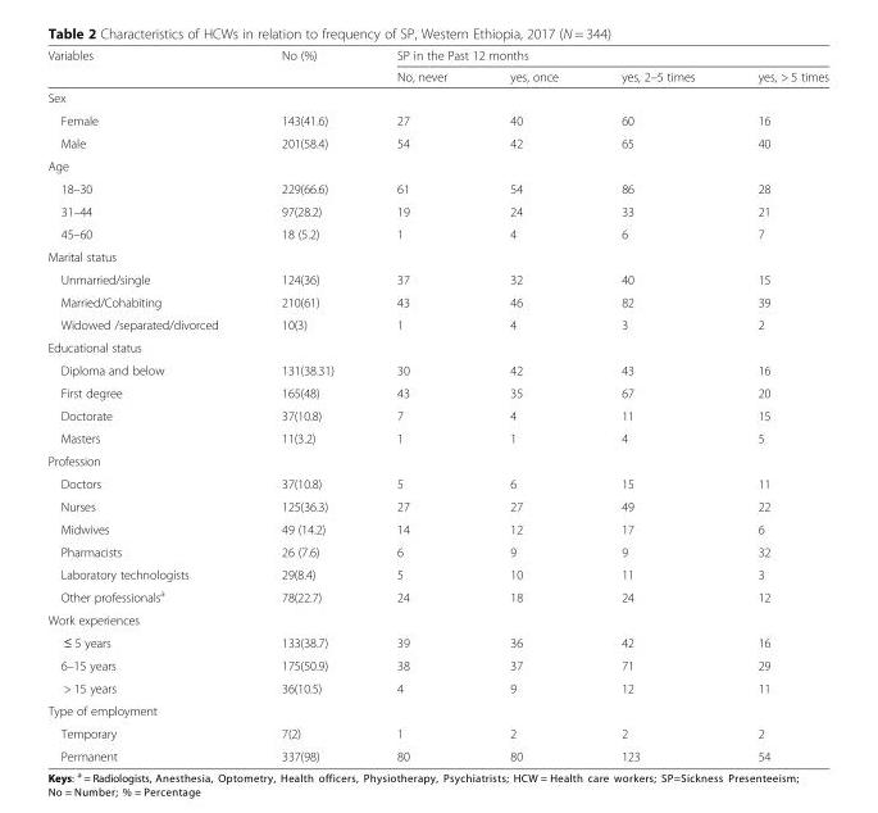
<table><thead><tr><td rowspan="2">Variables</td><td rowspan="2">No (%)</td><td colspan="4">SP in the Past 12 months</td></tr><tr><td>No, never</td><td>yes, once</td><td>yes, 2–5 times</td><td>yes, &gt; 5 times</td></tr></thead><tbody><tr><td colspan="6">Sex</td></tr><tr><td>Female</td><td>143(41.6)</td><td>27</td><td>40</td><td>60</td><td>16</td></tr><tr><td>Male</td><td>201(58.4)</td><td>54</td><td>42</td><td>65</td><td>40</td></tr><tr><td colspan="6">Age</td></tr><tr><td>18–30</td><td>229(66.6)</td><td>61</td><td>54</td><td>86</td><td>28</td></tr><tr><td>31–44</td><td>97(28.2)</td><td>19</td><td>24</td><td>33</td><td>21</td></tr><tr><td>45–60</td><td>18 (5.2)</td><td>1</td><td>4</td><td>6</td><td>7</td></tr><tr><td colspan="6">Marital status</td></tr><tr><td>Unmarried/single</td><td>124(36)</td><td>37</td><td>32</td><td>40</td><td>15</td></tr><tr><td>Married/Cohabiting</td><td>210(61)</td><td>43</td><td>46</td><td>82</td><td>39</td></tr><tr><td>Widowed /separated/divorced</td><td>10(3)</td><td>1</td><td>4</td><td>3</td><td>2</td></tr><tr><td colspan="6">Educational status</td></tr><tr><td>Diploma and below</td><td>131(38.31)</td><td>30</td><td>42</td><td>43</td><td>16</td></tr><tr><td>First degree</td><td>165(48)</td><td>43</td><td>35</td><td>67</td><td>20</td></tr><tr><td>Doctorate</td><td>37(10.8)</td><td>7</td><td>4</td><td>11</td><td>15</td></tr><tr><td>Masters</td><td>11(3.2)</td><td>1</td><td>1</td><td>4</td><td>5</td></tr><tr><td colspan="6">Profession</td></tr><tr><td>Doctors</td><td>37(10.8)</td><td>5</td><td>6</td><td>15</td><td>11</td></tr><tr><td>Nurses</td><td>125(36.3)</td><td>27</td><td>27</td><td>49</td><td>22</td></tr><tr><td>Midwives</td><td>49 (14.2)</td><td>14</td><td>12</td><td>17</td><td>6</td></tr><tr><td>Pharmacists</td><td>26 (7.6)</td><td>6</td><td>9</td><td>9</td><td>32</td></tr><tr><td>Laboratory technologists</td><td>29(8.4)</td><td>5</td><td>10</td><td>11</td><td>3</td></tr><tr><td>Other professionals<sup>a</sup></td><td>78(22.7)</td><td>24</td><td>18</td><td>24</td><td>12</td></tr><tr><td colspan="6">Work experiences</td></tr><tr><td>≤ 5 years</td><td>133(38.7)</td><td>39</td><td>36</td><td>42</td><td>16</td></tr><tr><td>6–15 years</td><td>175(50.9)</td><td>38</td><td>37</td><td>71</td><td>29</td></tr><tr><td>&gt; 15 years</td><td>36(10.5)</td><td>4</td><td>9</td><td>12</td><td>11</td></tr><tr><td colspan="6">Type of employment</td></tr><tr><td>Temporary</td><td>7(2)</td><td>1</td><td>2</td><td>2</td><td>2</td></tr><tr><td>Permanent</td><td>337(98)</td><td>80</td><td>80</td><td>123</td><td>54</td></tr></tbody></table>